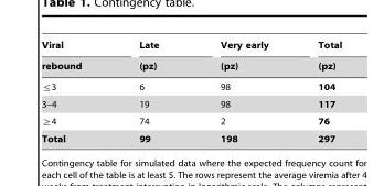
<table><thead><tr><td rowspan="2">Viral rebound</td><td rowspan="2">Late (pz)</td><td rowspan="2">Very early (pz)</td><td rowspan="2">Total (pz)</td></tr><tr></tr></thead><tbody><tr><td>ƒ3</td><td>6</td><td>98</td><td>104</td></tr><tr><td>3–4</td><td>19</td><td>98</td><td>117</td></tr><tr><td>§4</td><td>74</td><td>2</td><td>76</td></tr><tr><td>Total</td><td>99</td><td>198</td><td>297</td></tr></tbody></table>